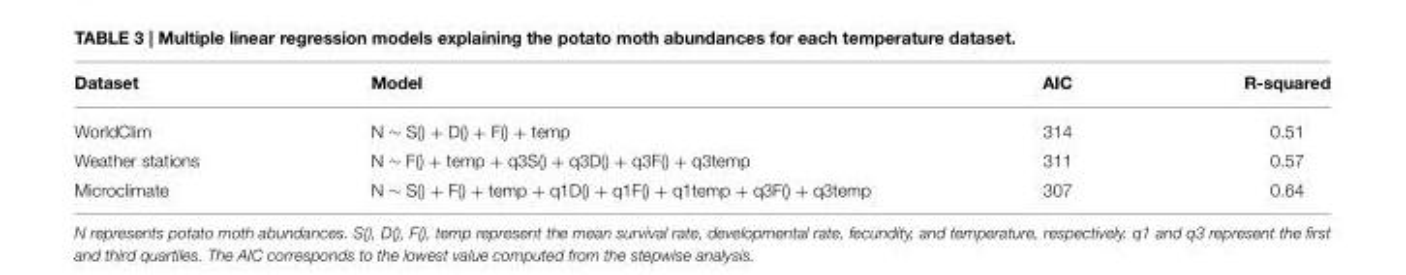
<table><thead><tr><td>Dataset</td><td>Model</td><td>AIC</td><td>R-squared</td></tr></thead><tbody><tr><td>WorldClim</td><td>N ∼ S() + D() + F() + temp</td><td>314</td><td>0.51</td></tr><tr><td>Weather stations</td><td>N ∼ F() + temp + q3S() + q3D() + q3F() + q3temp</td><td>311</td><td>0.57</td></tr><tr><td>Microclimate</td><td>N ∼ S() + F() + temp + q1D() + q1F() + q1temp + q3F() + q3temp</td><td>307</td><td>0.64</td></tr></tbody></table>